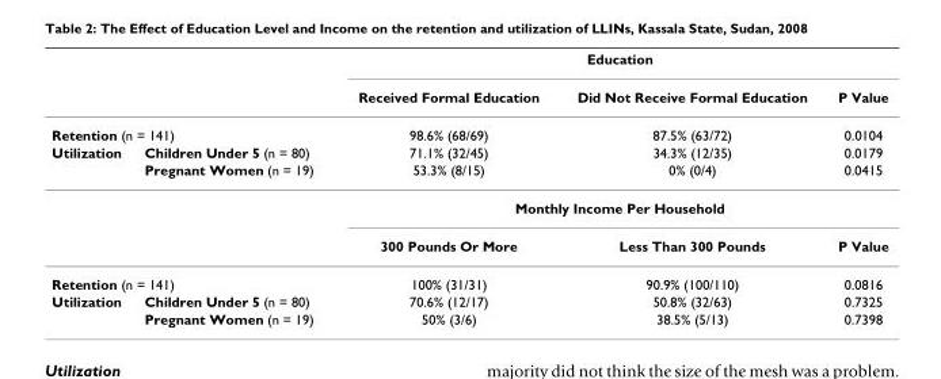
<table><thead><tr><td rowspan="2"></td><td rowspan="2"></td><td colspan="3">Education</td></tr><tr><td>Received Formal Education</td><td>Did Not Receive Formal Education</td><td>P Value</td></tr></thead><tbody><tr><td colspan="2">Retention (n = 141)</td><td>98.6% (68/69)</td><td>87.5% (63/72)</td><td>0.0104</td></tr><tr><td rowspan="4">Utilization</td><td>Children Under 5 (n = 80)</td><td>71.1% (32/45)</td><td>34.3% (12/35)</td><td>0.0179</td></tr><tr><td>Pregnant Women (n = 19)</td><td>53.3% (8/15)</td><td>0% (0/4)</td><td>0.0415</td></tr><tr><td></td><td colspan="3">Monthly Income Per Household</td></tr><tr><td></td><td>300 Pounds Or More</td><td>Less Than 300 Pounds</td><td>P Value</td></tr><tr><td colspan="2">Retention (n = 141)</td><td>100% (31/31)</td><td>90.9% (100/110)</td><td>0.0816</td></tr><tr><td rowspan="2">Utilization</td><td>Children Under 5 (n = 80)</td><td>70.6% (12/17)</td><td>50.8% (32/63)</td><td>0.7325</td></tr><tr><td>Pregnant Women (n = 19)</td><td>50% (3/6)</td><td>38.5% (5/13)</td><td>0.7398</td></tr></tbody></table>